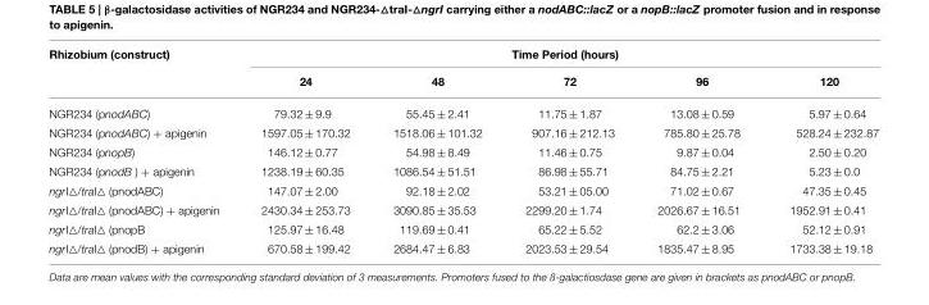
<table><thead><tr><td rowspan="2">Rhizobium (construct)</td><td colspan="5">Time Period (hours)</td></tr><tr><td>24</td><td>48</td><td>72</td><td>96</td><td>120</td></tr></thead><tbody><tr><td>NGR234 (pnodABC)</td><td>79.32 ± 9.9</td><td>55.45 ± 2.41</td><td>11.75 ± 1.87</td><td>13.08 ± 0.59</td><td>5.97 ± 0.64</td></tr><tr><td>NGR234 (pnodABC) + apigenin</td><td>1597.05 ± 170.32</td><td>1518.06 ± 101.32</td><td>907.16 ± 212.13</td><td>785.80 ± 25.78</td><td>528.24 ± 232.87</td></tr><tr><td>NGR234 (pnopB)</td><td>146.12 ± 0.77</td><td>54.98 ± 8.49</td><td>11.46 ± 0.75</td><td>9.87 ± 0.04</td><td>2.50 ± 0.20</td></tr><tr><td>NGR234 (pnodB ) + apigenin</td><td>1238.19 ± 60.35</td><td>1086.54 ± 51.51</td><td>86.98 ± 55.71</td><td>84.75 ± 2.21</td><td>5.23 ± 0.0</td></tr><tr><td>ngrI△/traI△ (pnodABC)</td><td>147.07 ± 2.00</td><td>92.18 ± 2.02</td><td>53.21 ± 05.00</td><td>71.02 ± 0.67</td><td>47.35 ± 0.45</td></tr><tr><td>ngrI△/traI△ (pnodABC) + apigenin</td><td>2430.34 ± 253.73</td><td>3090.85 ± 35.53</td><td>2299.20 ± 1.74</td><td>2026.67 ± 16.51</td><td>1952.91 ± 0.41</td></tr><tr><td>ngrI△/traI△ (pnopB</td><td>125.97 ± 16.48</td><td>119.69 ± 0.41</td><td>65.22 ± 5.52</td><td>62.2 ± 3.06</td><td>52.12 ± 0.91</td></tr><tr><td>ngrI△/traI△ (pnodB) + apigenin</td><td>670.58 ± 199.42</td><td>2684.47 ± 6.83</td><td>2023.53 ± 29.54</td><td>1835.47 ± 8.95</td><td>1733.38 ± 19.18</td></tr></tbody></table>